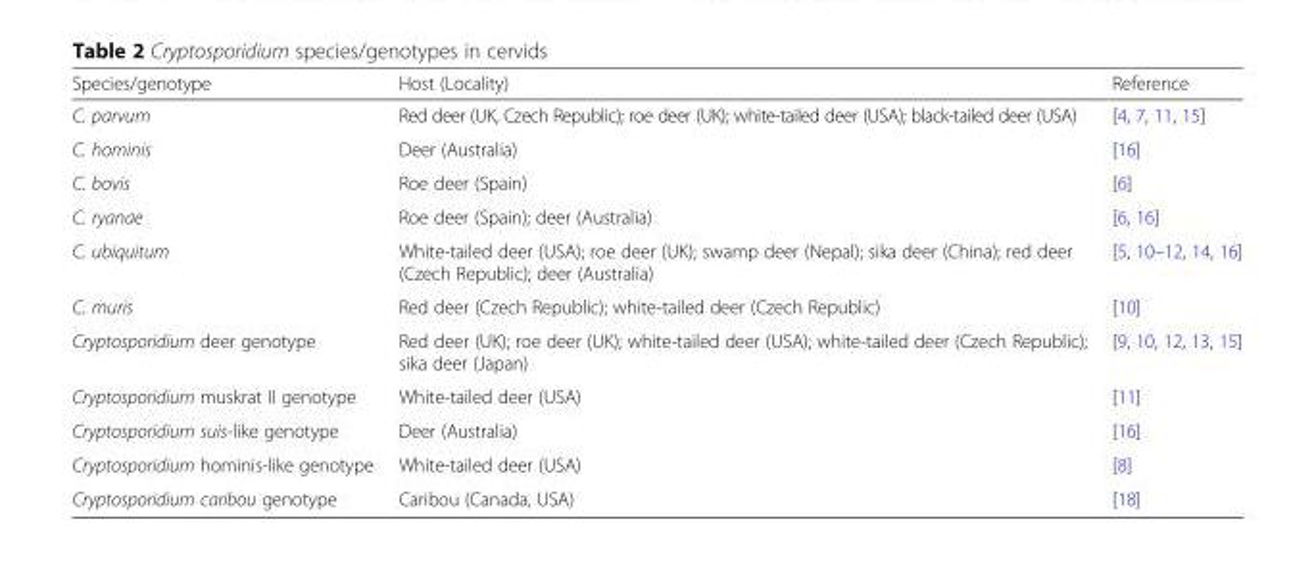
<table><thead><tr><td>Species/genotype</td><td>Host (Locality)</td><td>Reference</td></tr></thead><tbody><tr><td>C. parvum</td><td>Red deer (UK, Czech Republic); roe deer (UK); white-tailed deer (USA); black-tailed deer (USA)</td><td>[4, 7, 11, 15]</td></tr><tr><td>C. hominis</td><td>Deer (Australia)</td><td>[16]</td></tr><tr><td>C. bovis</td><td>Roe deer (Spain)</td><td>[6]</td></tr><tr><td>C. ryanae</td><td>Roe deer (Spain); deer (Australia)</td><td>[6, 16]</td></tr><tr><td>C. ubiquitum</td><td>White-tailed deer (USA); roe deer (UK); swamp deer (Nepal); sika deer (China); red deer (Czech Republic); deer (Australia)</td><td>[5, 10–12, 14, 16]</td></tr><tr><td>C. muris</td><td>Red deer (Czech Republic); white-tailed deer (Czech Republic)</td><td>[10]</td></tr><tr><td>Cryptosporidium deer genotype</td><td>Red deer (UK); roe deer (UK); white-tailed deer (USA); white-tailed deer (Czech Republic); sika deer (Japan)</td><td>[9, 10, 12, 13, 15]</td></tr><tr><td>Cryptosporidium muskrat II genotype</td><td>White-tailed deer (USA)</td><td>[11]</td></tr><tr><td>Cryptosporidium suis-like genotype</td><td>Deer (Australia)</td><td>[16]</td></tr><tr><td>Cryptosporidium hominis-like genotype</td><td>White-tailed deer (USA)</td><td>[8]</td></tr><tr><td>Cryptosporidium caribou genotype</td><td>Caribou (Canada, USA)</td><td>[18]</td></tr></tbody></table>